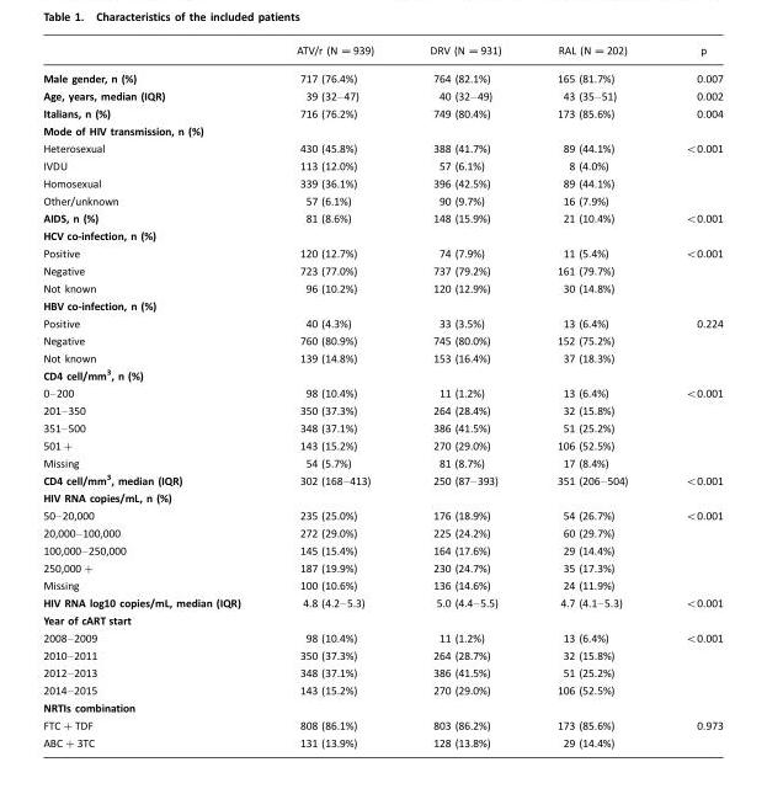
<table><thead><tr><td></td><td>ATV/r (N =939)</td><td>DRV (N =931)</td><td>RAL (N =202)</td><td>p</td></tr></thead><tbody><tr><td>Male gender, n (%)</td><td>717 (76.4%)</td><td>764 (82.1%)</td><td>165 (81.7%)</td><td>0.007</td></tr><tr><td>Age, years, median (IQR)</td><td>39 (32–47)</td><td>40 (32–49)</td><td>43 (35–51)</td><td>0.002</td></tr><tr><td>Italians, n (%)</td><td>716 (76.2%)</td><td>749 (80.4%)</td><td>173 (85.6%)</td><td>0.004</td></tr><tr><td colspan="5">Mode of HIV transmission, n (%)</td></tr><tr><td>Heterosexual</td><td>430 (45.8%)</td><td>388 (41.7%)</td><td>89 (44.1%)</td><td>&lt;0.001</td></tr><tr><td>IVDU</td><td>113 (12.0%)</td><td>57 (6.1%)</td><td>8 (4.0%)</td><td></td></tr><tr><td>Homosexual</td><td>339 (36.1%)</td><td>396 (42.5%)</td><td>89 (44.1%)</td><td></td></tr><tr><td>Other/unknown</td><td>57 (6.1%)</td><td>90 (9.7%)</td><td>16 (7.9%)</td><td></td></tr><tr><td>AIDS, n (%)</td><td>81 (8.6%)</td><td>148 (15.9%)</td><td>21 (10.4%)</td><td>&lt;0.001</td></tr><tr><td colspan="5">HCV co-infection, n (%)</td></tr><tr><td>Positive</td><td>120 (12.7%)</td><td>74 (7.9%)</td><td>11 (5.4%)</td><td>&lt;0.001</td></tr><tr><td>Negative</td><td>723 (77.0%)</td><td>737 (79.2%)</td><td>161 (79.7%)</td><td></td></tr><tr><td>Not known</td><td>96 (10.2%)</td><td>120 (12.9%)</td><td>30 (14.8%)</td><td></td></tr><tr><td colspan="5">HBV co-infection, n (%)</td></tr><tr><td>Positive</td><td>40 (4.3%)</td><td>33 (3.5%)</td><td>13 (6.4%)</td><td>0.224</td></tr><tr><td>Negative</td><td>760 (80.9%)</td><td>745 (80.0%)</td><td>152 (75.2%)</td><td></td></tr><tr><td>Not known</td><td>139 (14.8%)</td><td>153 (16.4%)</td><td>37 (18.3%)</td><td></td></tr><tr><td colspan="5">CD4 cell/mm3, n (%)</td></tr><tr><td>0–200</td><td>98 (10.4%)</td><td>11 (1.2%)</td><td>13 (6.4%)</td><td>&lt;0.001</td></tr><tr><td>201–350</td><td>350 (37.3%)</td><td>264 (28.4%)</td><td>32 (15.8%)</td><td></td></tr><tr><td>351–500</td><td>348 (37.1%)</td><td>386 (41.5%)</td><td>51 (25.2%)</td><td></td></tr><tr><td>501+</td><td>143 (15.2%)</td><td>270 (29.0%)</td><td>106 (52.5%)</td><td></td></tr><tr><td>Missing</td><td>54 (5.7%)</td><td>81 (8.7%)</td><td>17 (8.4%)</td><td></td></tr><tr><td>CD4 cell/mm3, median (IQR)</td><td>302 (168–413)</td><td>250 (87–393)</td><td>351 (206–504)</td><td>&lt;0.001</td></tr><tr><td colspan="5">HIV RNA copies/mL, n (%)</td></tr><tr><td>50–20,000</td><td>235 (25.0%)</td><td>176 (18.9%)</td><td>54 (26.7%)</td><td>&lt;0.001</td></tr><tr><td>20,000–100,000</td><td>272 (29.0%)</td><td>225 (24.2%)</td><td>60 (29.7%)</td><td></td></tr><tr><td>100,000–250,000</td><td>145 (15.4%)</td><td>164 (17.6%)</td><td>29 (14.4%)</td><td></td></tr><tr><td>250,000+</td><td>187 (19.9%)</td><td>230 (24.7%)</td><td>35 (17.3%)</td><td></td></tr><tr><td>Missing</td><td>100 (10.6%)</td><td>136 (14.6%)</td><td>24 (11.9%)</td><td></td></tr><tr><td>HIV RNA log10 copies/mL, median (IQR)</td><td>4.8 (4.2–5.3)</td><td>5.0 (4.4–5.5)</td><td>4.7 (4.1–5.3)</td><td>&lt;0.001</td></tr><tr><td colspan="5">Year of cART start</td></tr><tr><td>2008–2009</td><td>98 (10.4%)</td><td>11 (1.2%)</td><td>13 (6.4%)</td><td>&lt;0.001</td></tr><tr><td>2010–2011</td><td>350 (37.3%)</td><td>264 (28.7%)</td><td>32 (15.8%)</td><td></td></tr><tr><td>2012–2013</td><td>348 (37.1%)</td><td>386 (41.5%)</td><td>51 (25.2%)</td><td></td></tr><tr><td>2014–2015</td><td>143 (15.2%)</td><td>270 (29.0%)</td><td>106 (52.5%)</td><td></td></tr><tr><td colspan="5">NRTIs combination</td></tr><tr><td>FTC+TDF</td><td>808 (86.1%)</td><td>803 (86.2%)</td><td>173 (85.6%)</td><td>0.973</td></tr><tr><td>ABC+3TC</td><td>131 (13.9%)</td><td>128 (13.8%)</td><td>29 (14.4%)</td><td></td></tr></tbody></table>